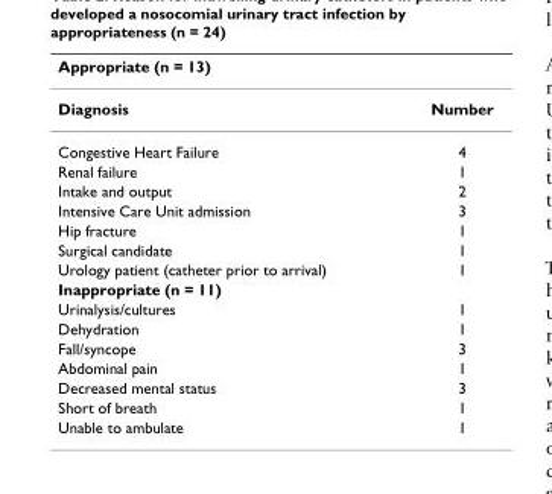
<table><thead><tr><td>Appropriate (n = 13)</td><td></td></tr></thead><tbody><tr><td>Diagnosis</td><td>Number</td></tr><tr><td>Congestive Heart Failure</td><td>4</td></tr><tr><td>Renal failure</td><td>1</td></tr><tr><td>Intake and output</td><td>2</td></tr><tr><td>Intensive Care Unit admission</td><td>3</td></tr><tr><td>Hip fracture</td><td>1</td></tr><tr><td>Surgical candidate</td><td>1</td></tr><tr><td>Urology patient (catheter prior to arrival)</td><td>1</td></tr><tr><td colspan="2">Inappropriate (n = 11)</td></tr><tr><td>Urinalysis/cultures</td><td>1</td></tr><tr><td>Dehydration</td><td>1</td></tr><tr><td>Fall/syncope</td><td>3</td></tr><tr><td>Abdominal pain</td><td>1</td></tr><tr><td>Decreased mental status</td><td>3</td></tr><tr><td>Short of breath</td><td>1</td></tr><tr><td>Unable to ambulate</td><td>1</td></tr></tbody></table>